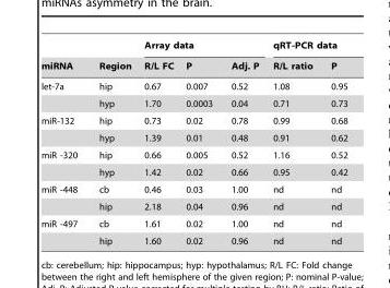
<table><thead><tr><td rowspan="2">miRNA</td><td rowspan="2">Region</td><td colspan="3">Array data</td><td colspan="2">qRT-PCR data</td></tr><tr><td>R/L FC</td><td>P</td><td>Adj. P</td><td>R/L ratio</td><td>P</td></tr></thead><tbody><tr><td rowspan="2">let-7a</td><td>hip</td><td>0.67</td><td>0.007</td><td>0.52</td><td>1.08</td><td>0.95</td></tr><tr><td>hyp</td><td>1.70</td><td>0.0003</td><td>0.04</td><td>0.71</td><td>0.73</td></tr><tr><td rowspan="2">miR-132</td><td>hip</td><td>0.73</td><td>0.02</td><td>0.78</td><td>0.99</td><td>0.68</td></tr><tr><td>hyp</td><td>1.39</td><td>0.01</td><td>0.48</td><td>0.91</td><td>0.62</td></tr><tr><td rowspan="2">miR -320</td><td>hip</td><td>0.66</td><td>0.005</td><td>0.52</td><td>1.16</td><td>0.52</td></tr><tr><td>hyp</td><td>1.42</td><td>0.02</td><td>0.66</td><td>0.95</td><td>0.42</td></tr><tr><td rowspan="2">miR -448</td><td>cb</td><td>0.46</td><td>0.03</td><td>1.00</td><td>nd</td><td>nd</td></tr><tr><td>hip</td><td>2.18</td><td>0.04</td><td>0.96</td><td>nd</td><td>nd</td></tr><tr><td rowspan="2">miR -497</td><td>cb</td><td>1.61</td><td>0.02</td><td>1.00</td><td>nd</td><td>nd</td></tr><tr><td>hip</td><td>1.60</td><td>0.02</td><td>0.96</td><td>nd</td><td>nd</td></tr></tbody></table>